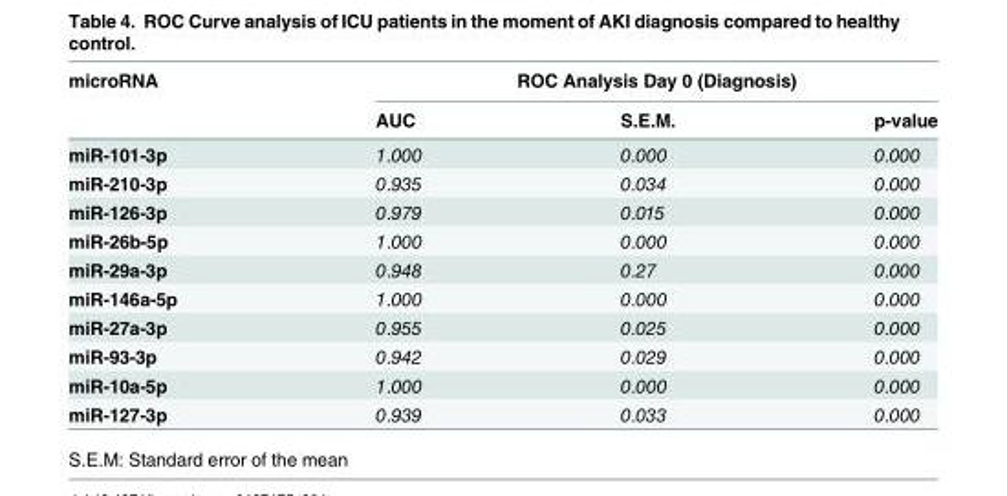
<table><thead><tr><td rowspan="2">microRNA</td><td colspan="3">ROC Analysis Day 0 (Diagnosis)</td></tr><tr><td>AUC</td><td>S.E.M.</td><td>p-value</td></tr></thead><tbody><tr><td>miR-101-3p</td><td>1.000</td><td>0.000</td><td>0.000</td></tr><tr><td>miR-210-3p</td><td>0.935</td><td>0.034</td><td>0.000</td></tr><tr><td>miR-126-3p</td><td>0.979</td><td>0.015</td><td>0.000</td></tr><tr><td>miR-26b-5p</td><td>1.000</td><td>0.000</td><td>0.000</td></tr><tr><td>miR-29a-3p</td><td>0.948</td><td>0.27</td><td>0.000</td></tr><tr><td>miR-146a-5p</td><td>1.000</td><td>0.000</td><td>0.000</td></tr><tr><td>miR-27a-3p</td><td>0.955</td><td>0.025</td><td>0.000</td></tr><tr><td>miR-93-3p</td><td>0.942</td><td>0.029</td><td>0.000</td></tr><tr><td>miR-10a-5p</td><td>1.000</td><td>0.000</td><td>0.000</td></tr><tr><td>miR-127-3p</td><td>0.939</td><td>0.033</td><td>0.000</td></tr></tbody></table>